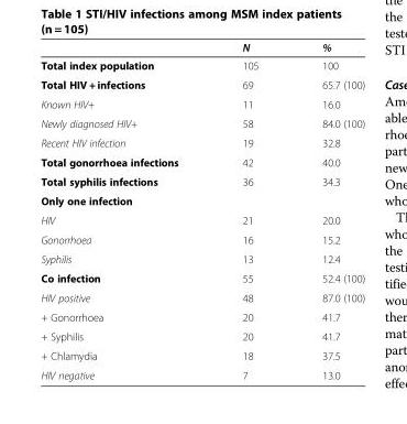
<table><thead><tr><td></td><td>N</td><td>%</td></tr></thead><tbody><tr><td>Total index population</td><td>105</td><td>100</td></tr><tr><td>Total HIV + infections</td><td>69</td><td>65.7 (100)</td></tr><tr><td>Known HIV+</td><td>11</td><td>16.0</td></tr><tr><td>Newly diagnosed HIV+</td><td>58</td><td>84.0 (100)</td></tr><tr><td>Recent HIV infection</td><td>19</td><td>32.8</td></tr><tr><td>Total gonorrhoea infections</td><td>42</td><td>40.0</td></tr><tr><td>Total syphilis infections</td><td>36</td><td>34.3</td></tr><tr><td colspan="3">Only one infection</td></tr><tr><td>HIV</td><td>21</td><td>20.0</td></tr><tr><td>Gonorrhoea</td><td>16</td><td>15.2</td></tr><tr><td>Syphilis</td><td>13</td><td>12.4</td></tr><tr><td>Co infection</td><td>55</td><td>52.4 (100)</td></tr><tr><td>HIV positive</td><td>48</td><td>87.0 (100)</td></tr><tr><td>+ Gonorrhoea</td><td>20</td><td>41.7</td></tr><tr><td>+ Syphilis</td><td>20</td><td>41.7</td></tr><tr><td>+ Chlamydia</td><td>18</td><td>37.5</td></tr><tr><td>HIV negative</td><td>7</td><td>13.0</td></tr></tbody></table>